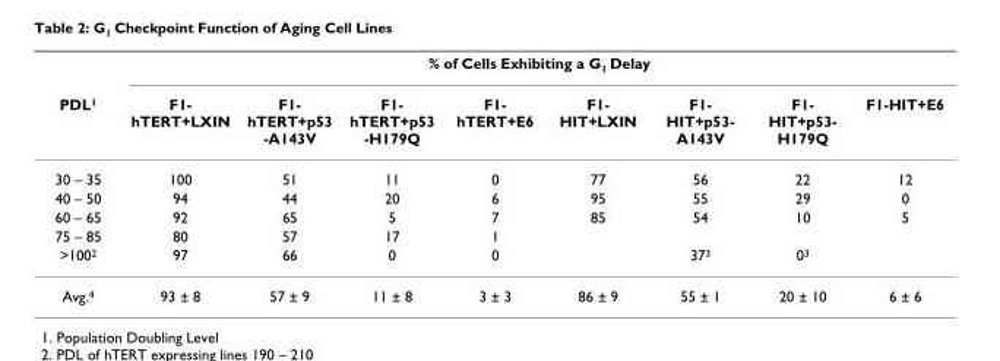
<table><thead><tr><td rowspan="2">PDL<sup>1</sup></td><td colspan="8">% of Cells Exhibiting a G<sub>1</sub> Delay</td></tr><tr><td>F1- hTERT+LXIN</td><td>F1- hTERT+p53 -A143V</td><td>F1- hTERT+p53 -H179Q</td><td>F1- hTERT+E6</td><td>F1- HIT+LXIN</td><td>F1- HIT+p53- A143V</td><td>F1- HIT+p53- H179Q</td><td>F1-HIT+E6</td></tr></thead><tbody><tr><td>30 – 35</td><td>100</td><td>51</td><td>11</td><td>0</td><td>77</td><td>56</td><td>22</td><td>12</td></tr><tr><td>40 – 50</td><td>94</td><td>44</td><td>20</td><td>6</td><td>95</td><td>55</td><td>29</td><td>0</td></tr><tr><td>60 – 65</td><td>92</td><td>65</td><td>5</td><td>7</td><td>85</td><td>54</td><td>10</td><td>5</td></tr><tr><td>75 – 85</td><td>80</td><td>57</td><td>17</td><td>1</td><td></td><td></td><td></td><td></td></tr><tr><td>&gt;100<sup>2</sup></td><td>97</td><td>66</td><td>0</td><td>0</td><td></td><td>37<sup>3</sup></td><td>0<sup>3</sup></td><td></td></tr><tr><td>Avg.<sup>4</sup></td><td>93 ± 8</td><td>57 ± 9</td><td>11 ± 8</td><td>3 ± 3</td><td>86 ± 9</td><td>55 ± 1</td><td>20 ± 10</td><td>6 ± 6</td></tr></tbody></table>